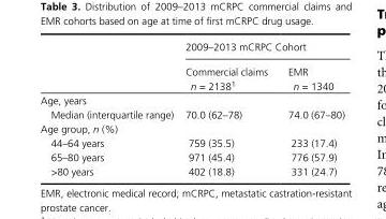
<table><thead><tr><td rowspan="2"></td><td colspan="2">2009–2013 mCRPC Cohort</td></tr><tr><td>Commercial claims n = 21381</td><td>EMR n = 1340</td></tr></thead><tbody><tr><td colspan="3">Age, years</td></tr><tr><td>Median (interquartile range)</td><td>70.0 (62–78)</td><td>74.0 (67–80)</td></tr><tr><td colspan="3">Age group, n (%)</td></tr><tr><td>44–64 years</td><td>759 (35.5)</td><td>233 (17.4)</td></tr><tr><td>65–80 years</td><td>971 (45.4)</td><td>776 (57.9)</td></tr><tr><td>&gt;80 years</td><td>402 (18.8)</td><td>331 (24.7)</td></tr></tbody></table>